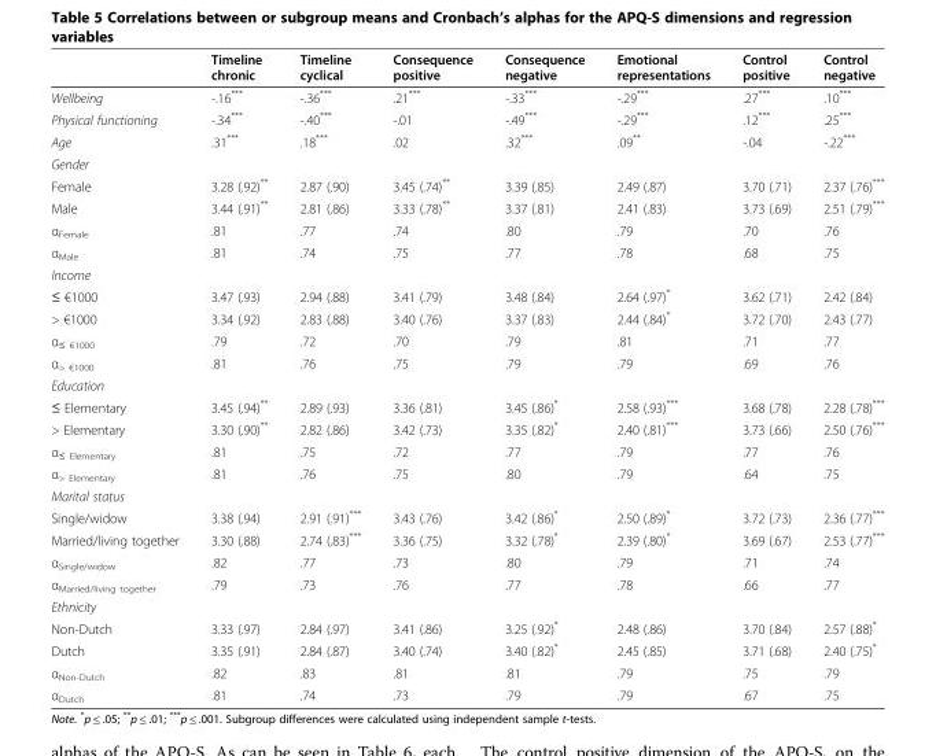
<table><thead><tr><td></td><td>Timeline chronic</td><td>Timeline cyclical</td><td>Consequence positive</td><td>Consequence negative</td><td>Emotional representations</td><td>Control positive</td><td>Control negative</td></tr></thead><tbody><tr><td>Wellbeing</td><td>-.16***</td><td>-.36***</td><td>.21***</td><td>-.33***</td><td>-.29***</td><td>.27***</td><td>.10***</td></tr><tr><td>Physical functioning</td><td>-.34***</td><td>-.40***</td><td>-.01</td><td>-.49***</td><td>-.29***</td><td>.12***</td><td>.25***</td></tr><tr><td>Age</td><td>.31***</td><td>.18***</td><td>.02</td><td>.32***</td><td>.09**</td><td>-.04</td><td>-.22***</td></tr><tr><td colspan="8">Gender</td></tr><tr><td>Female</td><td>3.28 (.92)**</td><td>2.87 (.90)</td><td>3.45 (.74)**</td><td>3.39 (.85)</td><td>2.49 (.87)</td><td>3.70 (.71)</td><td>2.37 (.76)***</td></tr><tr><td>Male</td><td>3.44 (.91)**</td><td>2.81 (.86)</td><td>3.33 (.78)**</td><td>3.37 (.81)</td><td>2.41 (.83)</td><td>3.73 (.69)</td><td>2.51 (.79)***</td></tr><tr><td>α<sub>Female</sub></td><td>.81</td><td>.77</td><td>.74</td><td>.80</td><td>.79</td><td>.70</td><td>.76</td></tr><tr><td>α<sub>Male</sub></td><td>.81</td><td>.74</td><td>.75</td><td>.77</td><td>.78</td><td>.68</td><td>.75</td></tr><tr><td colspan="8">Income</td></tr><tr><td>≤ €1000</td><td>3.47 (.93)</td><td>2.94 (.88)</td><td>3.41 (.79)</td><td>3.48 (.84)</td><td>2.64 (.97)*</td><td>3.62 (.71)</td><td>2.42 (.84)</td></tr><tr><td>&gt; €1000</td><td>3.34 (.92)</td><td>2.83 (.88)</td><td>3.40 (.76)</td><td>3.37 (.83)</td><td>2.44 (.84)*</td><td>3.72 (.70)</td><td>2.43 (.77)</td></tr><tr><td>α<sub>≤ €1000</sub></td><td>.79</td><td>.72</td><td>.70</td><td>.79</td><td>.81</td><td>.71</td><td>.77</td></tr><tr><td>α<sub>&gt; €1000</sub></td><td>.81</td><td>.76</td><td>.75</td><td>.79</td><td>.79</td><td>.69</td><td>.76</td></tr><tr><td colspan="8">Education</td></tr><tr><td>≤ Elementary</td><td>3.45 (.94)**</td><td>2.89 (.93)</td><td>3.36 (.81)</td><td>3.45 (.86)*</td><td>2.58 (.93)***</td><td>3.68 (.78)</td><td>2.28 (.78)***</td></tr><tr><td>&gt; Elementary</td><td>3.30 (.90)**</td><td>2.82 (.86)</td><td>3.42 (.73)</td><td>3.35 (.82)*</td><td>2.40 (.81)***</td><td>3.73 (.66)</td><td>2.50 (.76)***</td></tr><tr><td>α<sub>≤ Elementary</sub></td><td>.81</td><td>.75</td><td>.72</td><td>.77</td><td>.79</td><td>.77</td><td>.76</td></tr><tr><td>α<sub>&gt; Elementary</sub></td><td>.81</td><td>.76</td><td>.75</td><td>.80</td><td>.79</td><td>.64</td><td>.75</td></tr><tr><td colspan="8">Marital status</td></tr><tr><td>Single/widow</td><td>3.38 (.94)</td><td>2.91 (.91)***</td><td>3.43 (.76)</td><td>3.42 (.86)*</td><td>2.50 (.89)*</td><td>3.72 (.73)</td><td>2.36 (.77)***</td></tr><tr><td>Married/living together</td><td>3.30 (.88)</td><td>2.74 (.83)***</td><td>3.36 (.75)</td><td>3.32 (.78)*</td><td>2.39 (.80)*</td><td>3.69 (.67)</td><td>2.53 (.77)***</td></tr><tr><td>α<sub>Single/widow</sub></td><td>.82</td><td>.77</td><td>.73</td><td>.80</td><td>.79</td><td>.71</td><td>.74</td></tr><tr><td>α<sub>Married/living together</sub></td><td>.79</td><td>.73</td><td>.76</td><td>.77</td><td>.78</td><td>.66</td><td>.77</td></tr><tr><td colspan="8">Ethnicity</td></tr><tr><td>Non-Dutch</td><td>3.33 (.97)</td><td>2.84 (.97)</td><td>3.41 (.86)</td><td>3.25 (.92)*</td><td>2.48 (.86)</td><td>3.70 (.84)</td><td>2.57 (.88)*</td></tr><tr><td>Dutch</td><td>3.35 (.91)</td><td>2.84 (.87)</td><td>3.40 (.74)</td><td>3.40 (.82)*</td><td>2.45 (.85)</td><td>3.71 (.68)</td><td>2.40 (.75)*</td></tr><tr><td>α<sub>Non-Dutch</sub></td><td>.82</td><td>.83</td><td>.81</td><td>.81</td><td>.79</td><td>.75</td><td>.79</td></tr><tr><td>α<sub>Dutch</sub></td><td>.81</td><td>.74</td><td>.73</td><td>.79</td><td>.79</td><td>.67</td><td>.75</td></tr></tbody></table>